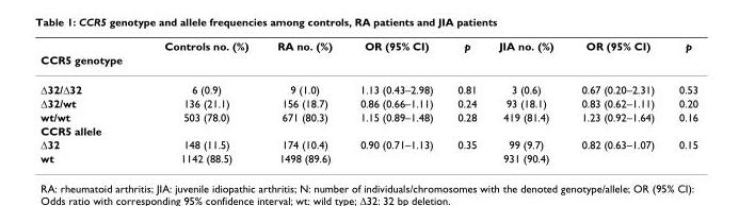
<table><thead><tr><td rowspan="2">CCR5 genotype</td><td rowspan="2">Controls no. (%)</td><td rowspan="2">RA no. (%)</td><td rowspan="2">OR (95% CI)</td><td rowspan="2">p</td><td rowspan="2">JIA no. (%)</td><td rowspan="2">OR (95% CI)</td><td rowspan="2">p</td></tr><tr></tr></thead><tbody><tr><td>∆32/∆32</td><td>6 (0.9)</td><td>9 (1.0)</td><td>1.13 (0.43–2.98)</td><td>0.81</td><td>3 (0.6)</td><td>0.67 (0.20–2.31)</td><td>0.53</td></tr><tr><td>∆32/wt</td><td>136 (21.1)</td><td>156 (18.7)</td><td>0.86 (0.66–1.11)</td><td>0.24</td><td>93 (18.1)</td><td>0.83 (0.62–1.11)</td><td>0.20</td></tr><tr><td>wt/wt</td><td>503 (78.0)</td><td>671 (80.3)</td><td>1.15 (0.89–1.48)</td><td>0.28</td><td>419 (81.4)</td><td>1.23 (0.92–1.64)</td><td>0.16</td></tr><tr><td colspan="8">CCR5 allele</td></tr><tr><td>∆32</td><td>148 (11.5)</td><td>174 (10.4)</td><td>0.90 (0.71–1.13)</td><td>0.35</td><td>99 (9.7)</td><td>0.82 (0.63–1.07)</td><td>0.15</td></tr><tr><td>wt</td><td>1142 (88.5)</td><td>1498 (89.6)</td><td></td><td></td><td>931 (90.4)</td><td></td><td></td></tr></tbody></table>